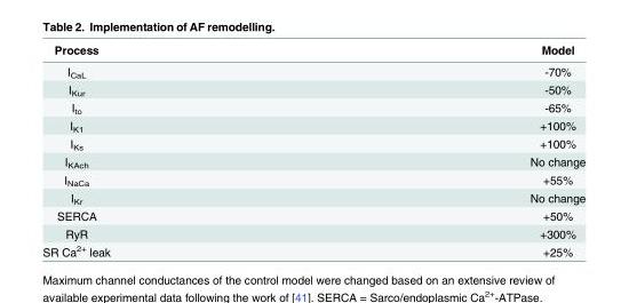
<table><thead><tr><td>Process</td><td>Model</td></tr></thead><tbody><tr><td>I<sub>CaL</sub></td><td>-70%</td></tr><tr><td>I<sub>Kur</sub></td><td>-50%</td></tr><tr><td>I<sub>to</sub></td><td>-65%</td></tr><tr><td>I<sub>K1</sub></td><td>+100%</td></tr><tr><td>I<sub>Ks</sub></td><td>+100%</td></tr><tr><td>I<sub>KAch</sub></td><td>No change</td></tr><tr><td>I<sub>NaCa</sub></td><td>+55%</td></tr><tr><td>I<sub>Kr</sub></td><td>No change</td></tr><tr><td>SERCA</td><td>+50%</td></tr><tr><td>RyR</td><td>+300%</td></tr><tr><td>SR Ca<sup>2+</sup> leak</td><td>+25%</td></tr></tbody></table>